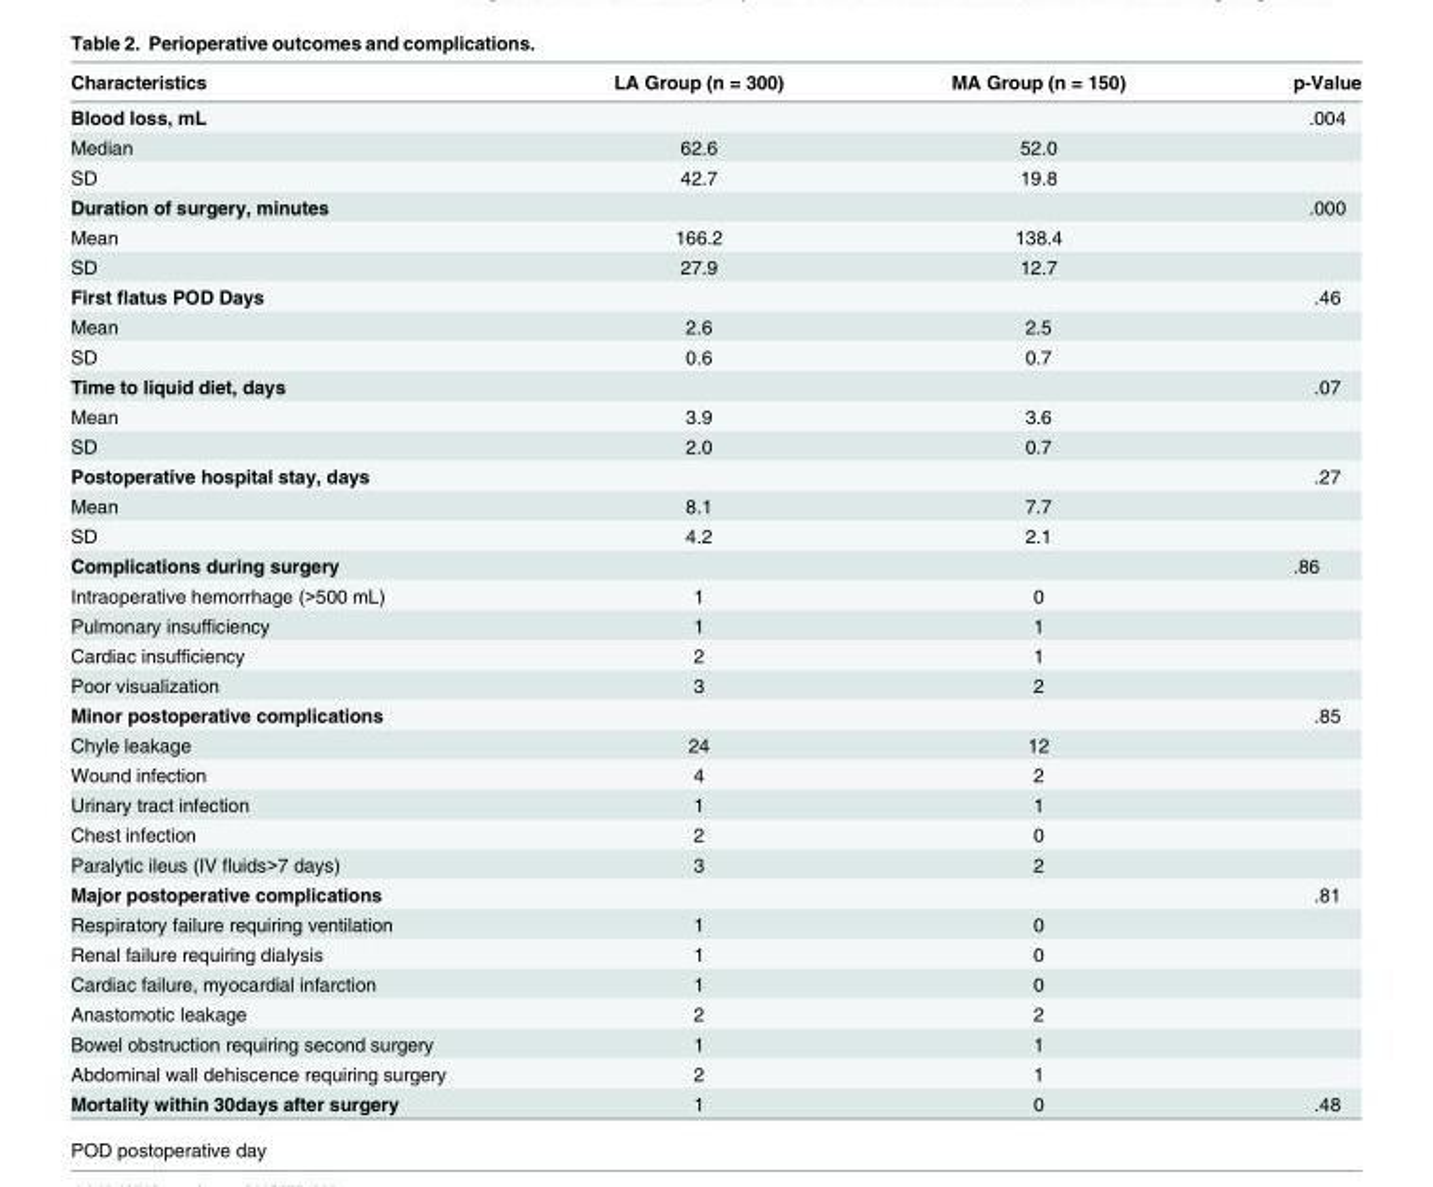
<table><thead><tr><td>Characteristics</td><td>LA Group (n = 300)</td><td>MA Group (n = 150)</td><td>p-Value</td></tr></thead><tbody><tr><td>Blood loss, mL</td><td></td><td></td><td>.004</td></tr><tr><td>Median</td><td>62.6</td><td>52.0</td><td></td></tr><tr><td>SD</td><td>42.7</td><td>19.8</td><td></td></tr><tr><td>Duration of surgery, minutes</td><td></td><td></td><td>.000</td></tr><tr><td>Mean</td><td>166.2</td><td>138.4</td><td></td></tr><tr><td>SD</td><td>27.9</td><td>12.7</td><td></td></tr><tr><td>First flatus POD Days</td><td></td><td></td><td>.46</td></tr><tr><td>Mean</td><td>2.6</td><td>2.5</td><td></td></tr><tr><td>SD</td><td>0.6</td><td>0.7</td><td></td></tr><tr><td>Time to liquid diet, days</td><td></td><td></td><td>.07</td></tr><tr><td>Mean</td><td>3.9</td><td>3.6</td><td></td></tr><tr><td>SD</td><td>2.0</td><td>0.7</td><td></td></tr><tr><td>Postoperative hospital stay, days</td><td></td><td></td><td>.27</td></tr><tr><td>Mean</td><td>8.1</td><td>7.7</td><td></td></tr><tr><td>SD</td><td>4.2</td><td>2.1</td><td></td></tr><tr><td>Complications during surgery</td><td></td><td></td><td>.86</td></tr><tr><td>Intraoperative hemorrhage (&gt;500 mL)</td><td>1</td><td>0</td><td></td></tr><tr><td>Pulmonary insufficiency</td><td>1</td><td>1</td><td></td></tr><tr><td>Cardiac insufficiency</td><td>2</td><td>1</td><td></td></tr><tr><td>Poor visualization</td><td>3</td><td>2</td><td></td></tr><tr><td>Minor postoperative complications</td><td></td><td></td><td>.85</td></tr><tr><td>Chyle leakage</td><td>24</td><td>12</td><td></td></tr><tr><td>Wound infection</td><td>4</td><td>2</td><td></td></tr><tr><td>Urinary tract infection</td><td>1</td><td>1</td><td></td></tr><tr><td>Chest infection</td><td>2</td><td>0</td><td></td></tr><tr><td>Paralytic ileus (IV fluids&gt;7 days)</td><td>3</td><td>2</td><td></td></tr><tr><td>Major postoperative complications</td><td></td><td></td><td>.81</td></tr><tr><td>Respiratory failure requiring ventilation</td><td>1</td><td>0</td><td></td></tr><tr><td>Renal failure requiring dialysis</td><td>1</td><td>0</td><td></td></tr><tr><td>Cardiac failure, myocardial infarction</td><td>1</td><td>0</td><td></td></tr><tr><td>Anastomotic leakage</td><td>2</td><td>2</td><td></td></tr><tr><td>Bowel obstruction requiring second surgery</td><td>1</td><td>1</td><td></td></tr><tr><td>Abdominal wall dehiscence requiring surgery</td><td>2</td><td>1</td><td></td></tr><tr><td>Mortality within 30days after surgery</td><td>1</td><td>0</td><td>.48</td></tr></tbody></table>